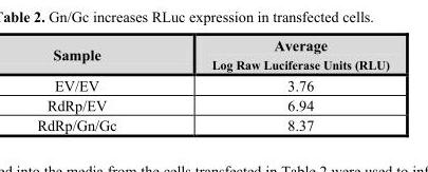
<table><thead><tr><td>Sample</td><td>Average Log Raw Luciferase Units (RLU)</td></tr></thead><tbody><tr><td>EV/EV</td><td>3.76</td></tr><tr><td>RdRp/EV</td><td>6.94</td></tr><tr><td>RdRp/Gn/Gc</td><td>8.37</td></tr></tbody></table>